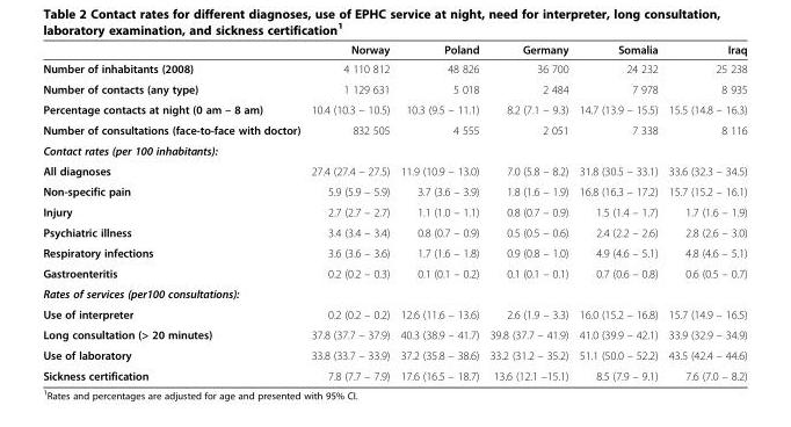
<table><thead><tr><td></td><td>Norway</td><td>Poland</td><td>Germany</td><td>Somalia</td><td>Iraq</td></tr></thead><tbody><tr><td>Number of inhabitants (2008)</td><td>4 110 812</td><td>48 826</td><td>36 700</td><td>24 232</td><td>25 238</td></tr><tr><td>Number of contacts (any type)</td><td>1 129 631</td><td>5 018</td><td>2 484</td><td>7 978</td><td>8 935</td></tr><tr><td>Percentage contacts at night (0 am – 8 am)</td><td>10.4 (10.3 – 10.5)</td><td>10.3 (9.5 – 11.1)</td><td>8.2 (7.1 – 9.3)</td><td>14.7 (13.9 – 15.5)</td><td>15.5 (14.8 – 16.3)</td></tr><tr><td>Number of consultations (face-to-face with doctor)</td><td>832 505</td><td>4 555</td><td>2 051</td><td>7 338</td><td>8 116</td></tr><tr><td colspan="6">Contact rates (per 100 inhabitants):</td></tr><tr><td>All diagnoses</td><td>27.4 (27.4 – 27.5)</td><td>11.9 (10.9 – 13.0)</td><td>7.0 (5.8 – 8.2)</td><td>31.8 (30.5 – 33.1)</td><td>33.6 (32.3 – 34.5)</td></tr><tr><td>Non-specific pain</td><td>5.9 (5.9 – 5.9)</td><td>3.7 (3.6 – 3.9)</td><td>1.8 (1.6 – 1.9)</td><td>16.8 (16.3 – 17.2)</td><td>15.7 (15.2 – 16.1)</td></tr><tr><td>Injury</td><td>2.7 (2.7 – 2.7)</td><td>1.1 (1.0 – 1.1)</td><td>0.8 (0.7 – 0.9)</td><td>1.5 (1.4 – 1.7)</td><td>1.7 (1.6 – 1.9)</td></tr><tr><td>Psychiatric illness</td><td>3.4 (3.4 – 3.4)</td><td>0.8 (0.7 – 0.9)</td><td>0.5 (0.5 – 0.6)</td><td>2.4 (2.2 – 2.6)</td><td>2.8 (2.6 – 3.0)</td></tr><tr><td>Respiratory infections</td><td>3.6 (3.6 – 3.6)</td><td>1.7 (1.6 – 1.8)</td><td>0.9 (0.8 – 1.0)</td><td>4.9 (4.6 – 5.1)</td><td>4.8 (4.6 – 5.1)</td></tr><tr><td>Gastroenteritis</td><td>0.2 (0.2 – 0.3)</td><td>0.1 (0.1 – 0.2)</td><td>0.1 (0.1 – 0.1)</td><td>0.7 (0.6 – 0.8)</td><td>0.6 (0.5 – 0.7)</td></tr><tr><td colspan="6">Rates of services (per100 consultations):</td></tr><tr><td>Use of interpreter</td><td>0.2 (0.2 – 0.2)</td><td>12.6 (11.6 – 13.6)</td><td>2.6 (1.9 – 3.3)</td><td>16.0 (15.2 – 16.8)</td><td>15.7 (14.9 – 16.5)</td></tr><tr><td>Long consultation (&gt; 20 minutes)</td><td>37.8 (37.7 – 37.9)</td><td>40.3 (38.9 – 41.7)</td><td>39.8 (37.7 – 41.9)</td><td>41.0 (39.9 – 42.1)</td><td>33.9 (32.9 – 34.9)</td></tr><tr><td>Use of laboratory</td><td>33.8 (33.7 – 33.9)</td><td>37.2 (35.8 – 38.6)</td><td>33.2 (31.2 – 35.2)</td><td>51.1 (50.0 – 52.2)</td><td>43.5 (42.4 – 44.6)</td></tr><tr><td>Sickness certification</td><td>7.8 (7.7 – 7.9)</td><td>17.6 (16.5 – 18.7)</td><td>13.6 (12.1 –15.1)</td><td>8.5 (7.9 – 9.1)</td><td>7.6 (7.0 – 8.2)</td></tr></tbody></table>